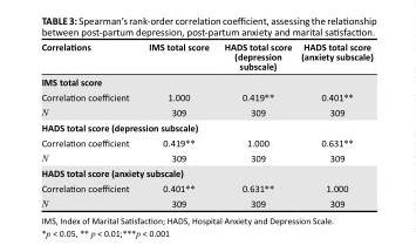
<table><thead><tr><td>Correlations</td><td>IMS total score</td><td>HADS total score (depression subscale)</td><td>HADS total score (anxiety subscale)</td></tr></thead><tbody><tr><td colspan="4">IMS total score</td></tr><tr><td>Correlation coefficient</td><td>1.000</td><td>0.419**</td><td>0.401**</td></tr><tr><td>N</td><td>309</td><td>309</td><td>309</td></tr><tr><td colspan="4">HADS total score (depression subscale)</td></tr><tr><td>Correlation coefficient</td><td>0.419**</td><td>1.000</td><td>0.631**</td></tr><tr><td>N</td><td>309</td><td>309</td><td>309</td></tr><tr><td colspan="4">HADS total score (anxiety subscale)</td></tr><tr><td>Correlation coefficient</td><td>0.401**</td><td>0.631**</td><td>1.000</td></tr><tr><td>N</td><td>309</td><td>309</td><td>309</td></tr></tbody></table>